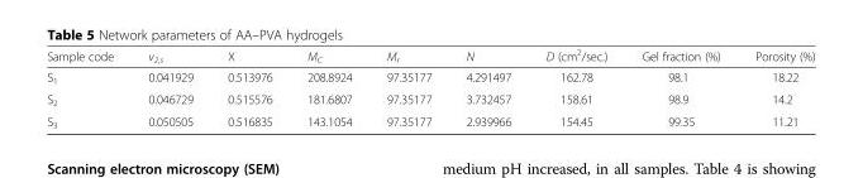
<table><thead><tr><td>Sample code</td><td>v<sub>2,s</sub></td><td>Χ</td><td>M<sub>C</sub></td><td>M<sub>r</sub></td><td>N</td><td>D (cm<sup>2</sup>/sec.)</td><td>Gel fraction (%)</td><td>Porosity (%)</td></tr></thead><tbody><tr><td>S<sub>1</sub></td><td>0.041929</td><td>0.513976</td><td>208.8924</td><td>97.35177</td><td>4.291497</td><td>162.78</td><td>98.1</td><td>18.22</td></tr><tr><td>S<sub>2</sub></td><td>0.046729</td><td>0.515576</td><td>181.6807</td><td>97.35177</td><td>3.732457</td><td>158.61</td><td>98.9</td><td>14.2</td></tr><tr><td>S<sub>3</sub></td><td>0.050505</td><td>0.516835</td><td>143.1054</td><td>97.35177</td><td>2.939966</td><td>154.45</td><td>99.35</td><td>11.21</td></tr></tbody></table>